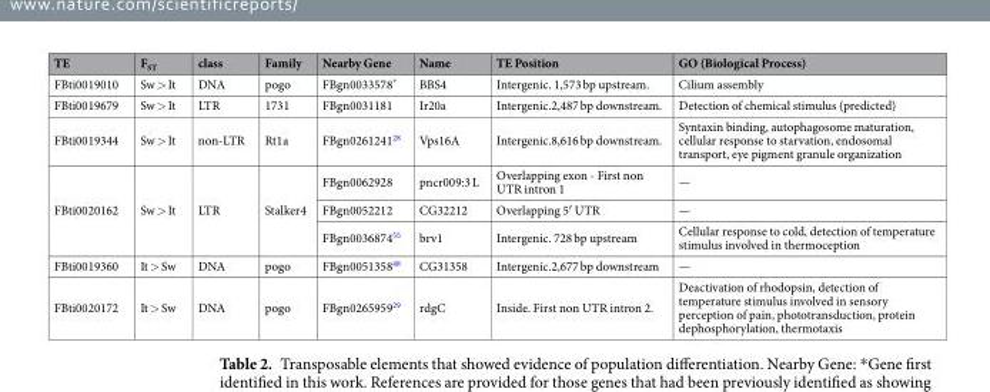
<table><thead><tr><td>TE</td><td>F<sub>ST</sub></td><td>class</td><td>Family</td><td>Nearby Gene</td><td>Name</td><td>TE Position</td><td>GO (Biological Process)</td></tr></thead><tbody><tr><td>FBti0019010</td><td>Sw &gt; It</td><td>DNA</td><td>pogo</td><td>FBgn0033578*</td><td>BBS4</td><td>Intergenic. 1,573 bp upstream.</td><td>Cilium assembly</td></tr><tr><td>FBti0019679</td><td>Sw &gt; It</td><td>LTR</td><td>1731</td><td>FBgn0031181</td><td>Ir20a</td><td>Intergenic.2,487 bp downstream.</td><td>Detection of chemical stimulus (predicted)</td></tr><tr><td>FBti0019344</td><td>Sw &gt; It</td><td>non-LTR</td><td>Rt1a</td><td>FBgn0261241<sup>28</sup></td><td>Vps16A</td><td>Intergenic.8,616 bp downstream.</td><td>Syntaxin binding, autophagosome maturation, cellular response to starvation, endosomal transport, eye pigment granule organization</td></tr><tr><td rowspan="3">FBti0020162</td><td rowspan="3">Sw &gt; It</td><td rowspan="3">LTR</td><td rowspan="3">Stalker4</td><td>FBgn0062928</td><td>pncr009:3 L</td><td>Overlapping exon - First non UTR intron 1</td><td>—</td></tr><tr><td>FBgn0052212</td><td>CG32212</td><td>Overlapping 5′ UTR</td><td>—</td></tr><tr><td>FBgn0036874<sup>55</sup></td><td>brv1</td><td>Intergenic. 728 bp upstream</td><td>Cellular response to cold, detection of temperature stimulus involved in thermoception</td></tr><tr><td>FBti0019360</td><td>It &gt; Sw</td><td>DNA</td><td>pogo</td><td>FBgn0051358<sup>48</sup></td><td>CG31358</td><td>Intergenic.2,677 bp downstream</td><td>—</td></tr><tr><td>FBti0020172</td><td>It &gt; Sw</td><td>DNA</td><td>pogo</td><td>FBgn0265959<sup>29</sup></td><td>rdgC</td><td>Inside. First non UTR intron 2.</td><td>Deactivation of rhodopsin, detection of temperature stimulus involved in sensory perception of pain, phototransduction, protein dephosphorylation, thermotaxis</td></tr></tbody></table>